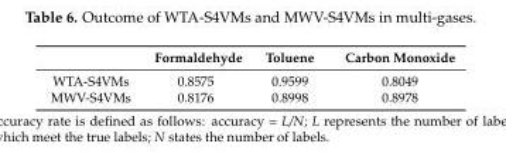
<table><thead><tr><td></td><td>Formaldehyde</td><td>Toluene</td><td>Carbon Monoxide</td></tr></thead><tbody><tr><td>WTA-S4VMs</td><td>0.8575</td><td>0.9599</td><td>0.8049</td></tr><tr><td>MWV-S4VMs</td><td>0.8176</td><td>0.8998</td><td>0.8978</td></tr></tbody></table>